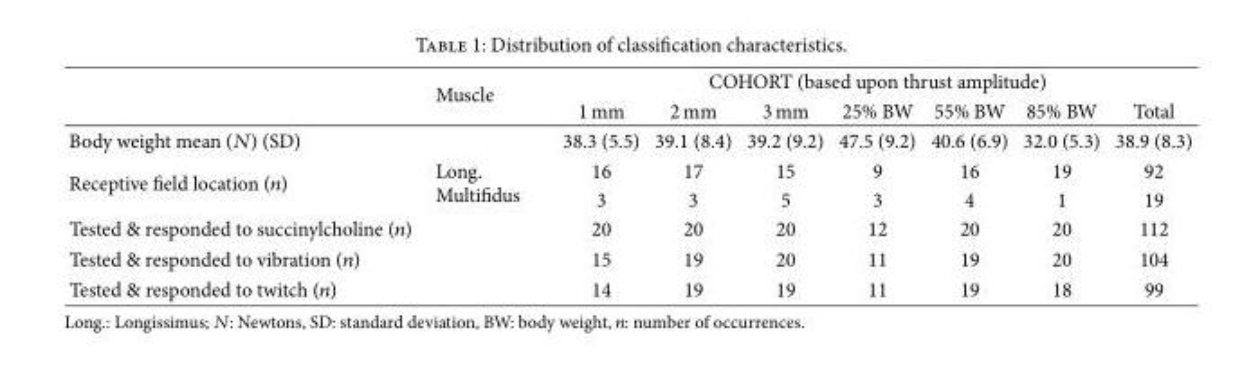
<table><thead><tr><td rowspan="2"></td><td rowspan="2">Muscle</td><td colspan="7">COHORT (based upon thrust amplitude)</td></tr><tr><td>1 mm</td><td>2 mm</td><td>3 mm</td><td>25% BW</td><td>55% BW</td><td>85% BW</td><td>Total</td></tr></thead><tbody><tr><td>Body weight mean (𝑁𝑁) (SD)</td><td></td><td>38.3 (5.5)</td><td>39.1 (8.4)</td><td>39.2 (9.2)</td><td>47.5 (9.2)</td><td>40.6 (6.9)</td><td>32.0 (5.3)</td><td>38.9 (8.3)</td></tr><tr><td rowspan="2">Receptive �eld location (𝑛𝑛)</td><td rowspan="2">Long. Multi�dus</td><td>16</td><td>17</td><td>15</td><td>9</td><td>16</td><td>19</td><td>92</td></tr><tr><td>3</td><td>3</td><td>5</td><td>3</td><td>4</td><td>1</td><td>19</td></tr><tr><td>Tested &amp; responded to succinylcholine (𝑛𝑛)</td><td></td><td>20</td><td>20</td><td>20</td><td>12</td><td>20</td><td>20</td><td>112</td></tr><tr><td>Tested &amp; responded to vibration (𝑛𝑛)</td><td></td><td>15</td><td>19</td><td>20</td><td>11</td><td>19</td><td>20</td><td>104</td></tr><tr><td>Tested &amp; responded to twitch (𝑛𝑛)</td><td></td><td>14</td><td>19</td><td>19</td><td>11</td><td>19</td><td>18</td><td>99</td></tr></tbody></table>